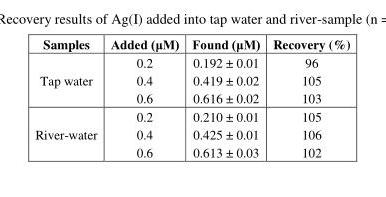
<table><thead><tr><td>Samples</td><td>Added (μM)</td><td>Found (μM)</td><td>Recovery (%)</td></tr></thead><tbody><tr><td>Tap water</td><td>0.2 0.4 0.6</td><td>0.192 ± 0.01 0.419 ± 0.02 0.616 ± 0.02</td><td>96 105 103</td></tr><tr><td>River-water</td><td>0.2 0.4 0.6</td><td>0.210 ± 0.01 0.425 ± 0.01 0.613 ± 0.03</td><td>105 106 102</td></tr></tbody></table>